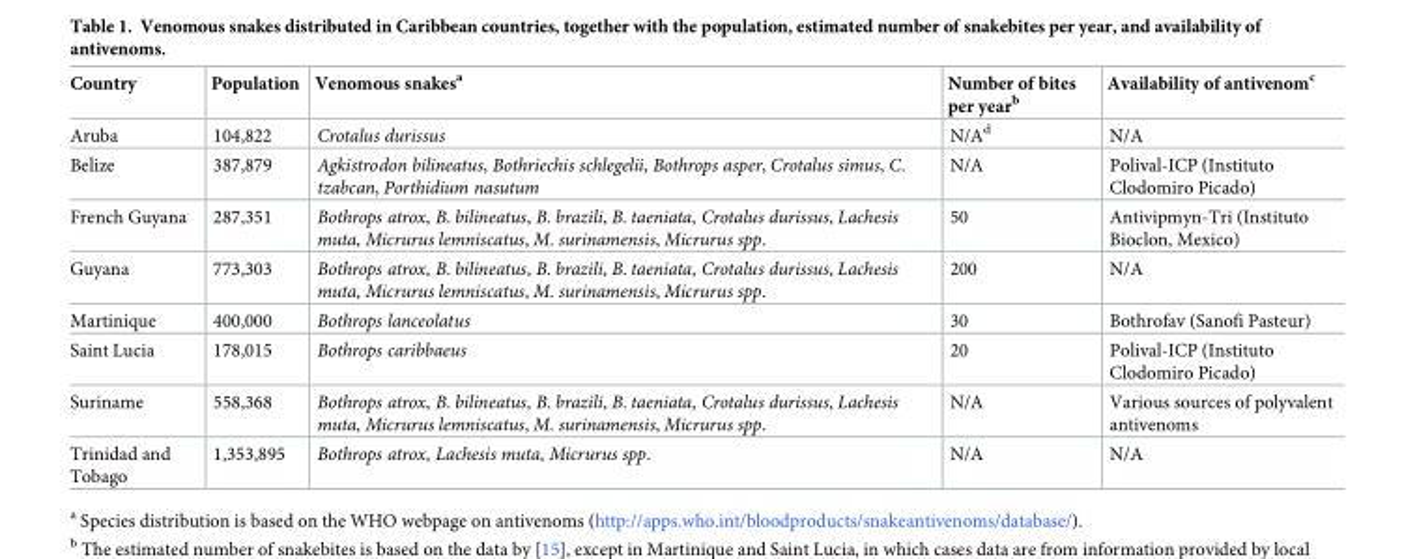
<table><thead><tr><td>Country</td><td>Population</td><td>Venomous snakes<sup>a</sup></td><td>Number of bites per year<sup>b</sup></td><td>Availability of antivenom<sup>c</sup></td></tr></thead><tbody><tr><td>Aruba</td><td>104,822</td><td>Crotalus durissus</td><td>N/A<sup>d</sup></td><td>N/A</td></tr><tr><td>Belize</td><td>387,879</td><td>Agkistrodon bilineatus, Bothriechis schlegelii, Bothrops asper, Crotalus simus, C. tzabcan, Porthidium nasutum</td><td>N/A</td><td>Polival-ICP (Instituto Clodomiro Picado)</td></tr><tr><td>French Guyana</td><td>287,351</td><td>Bothrops atrox, B. bilineatus, B. brazili, B. taeniata, Crotalus durissus, Lachesis muta, Micrurus lemniscatus, M. surinamensis, Micrurus spp.</td><td>50</td><td>Antivipmyn-Tri (Instituto Bioclon, Mexico)</td></tr><tr><td>Guyana</td><td>773,303</td><td>Bothrops atrox, B. bilineatus, B. brazili, B. taeniata, Crotalus durissus, Lachesis muta, Micrurus lemniscatus, M. surinamensis, Micrurus spp.</td><td>200</td><td>N/A</td></tr><tr><td>Martinique</td><td>400,000</td><td>Bothrops lanceolatus</td><td>30</td><td>Bothrofav (Sanofi Pasteur)</td></tr><tr><td>Saint Lucia</td><td>178,015</td><td>Bothrops caribbaeus</td><td>20</td><td>Polival-ICP (Instituto Clodomiro Picado)</td></tr><tr><td>Suriname</td><td>558,368</td><td>Bothrops atrox, B. bilineatus, B. brazili, B. taeniata, Crotalus durissus, Lachesis muta, Micrurus lemniscatus, M. surinamensis, Micrurus spp.</td><td>N/A</td><td>Various sources of polyvalent antivenoms</td></tr><tr><td>Trinidad and Tobago</td><td>1,353,895</td><td>Bothrops atrox, Lachesis muta, Micrurus spp.</td><td>N/A</td><td>N/A</td></tr></tbody></table>